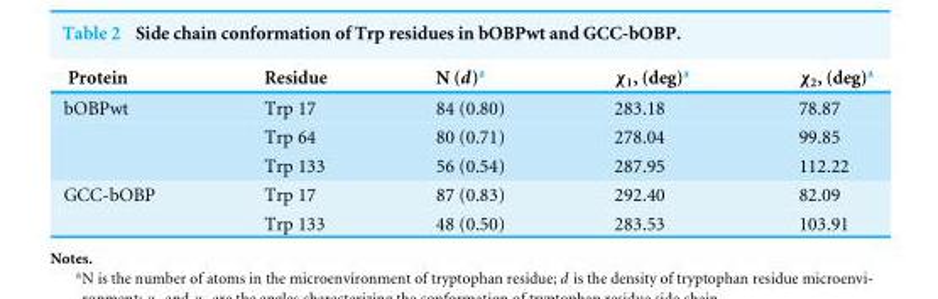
<table><thead><tr><td>Protein</td><td>Residue</td><td>N (d)<sup>a</sup></td><td>χ<sub>1</sub>, (deg)<sup>a</sup></td><td>χ<sub>2</sub>, (deg)<sup>a</sup></td></tr></thead><tbody><tr><td rowspan="3">bOBPwt</td><td>Trp 17</td><td>84 (0.80)</td><td>283.18</td><td>78.87</td></tr><tr><td>Trp 64</td><td>80 (0.71)</td><td>278.04</td><td>99.85</td></tr><tr><td>Trp 133</td><td>56 (0.54)</td><td>287.95</td><td>112.22</td></tr><tr><td rowspan="2">GCC-bOBP</td><td>Trp 17</td><td>87 (0.83)</td><td>292.40</td><td>82.09</td></tr><tr><td>Trp 133</td><td>48 (0.50)</td><td>283.53</td><td>103.91</td></tr></tbody></table>